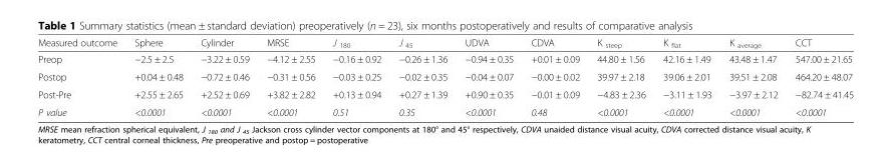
<table><thead><tr><td>Measured outcome</td><td>Sphere</td><td>Cylinder</td><td>MRSE</td><td>J <sub>180</sub></td><td>J <sub>45</sub></td><td>UDVA</td><td>CDVA</td><td>K <sub>steep</sub></td><td>K <sub>flat</sub></td><td>K <sub>average</sub></td><td>CCT</td></tr></thead><tbody><tr><td>Preop</td><td>−2.5 ± 2.5</td><td>−3.22 ± 0.59</td><td>−4.12 ± 2.55</td><td>−0.16 ± 0.92</td><td>−0.26 ± 1.36</td><td>−0.94 ± 0.35</td><td>+0.01 ± 0.09</td><td>44.80 ± 1.56</td><td>42.16 ± 1.49</td><td>43.48 ± 1.47</td><td>547.00 ± 21.65</td></tr><tr><td>Postop</td><td>+0.04 ± 0.48</td><td>−0.72 ± 0.46</td><td>−0.31 ± 0.56</td><td>−0.03 ± 0.25</td><td>−0.02 ± 0.35</td><td>−0.04 ± 0.07</td><td>−0.00 ± 0.02</td><td>39.97 ± 2.18</td><td>39.06 ± 2.01</td><td>39.51 ± 2.08</td><td>464.20 ± 48.07</td></tr><tr><td>Post-Pre</td><td>+2.55 ± 2.65</td><td>+2.52 ± 0.69</td><td>+3.82 ± 2.82</td><td>+0.13 ± 0.94</td><td>+0.27 ± 1.39</td><td>+0.90 ± 0.35</td><td>−0.01 ± 0.09</td><td>−4.83 ± 2.36</td><td>−3.11 ± 1.93</td><td>−3.97 ± 2.12</td><td>−82.74 ± 41.45</td></tr><tr><td>P value</td><td>&lt;0.0001</td><td>&lt;0.0001</td><td>&lt;0.0001</td><td>0.51</td><td>0.35</td><td>&lt;0.0001</td><td>0.48</td><td>&lt;0.0001</td><td>&lt;0.0001</td><td>&lt;0.0001</td><td>&lt;0.0001</td></tr></tbody></table>